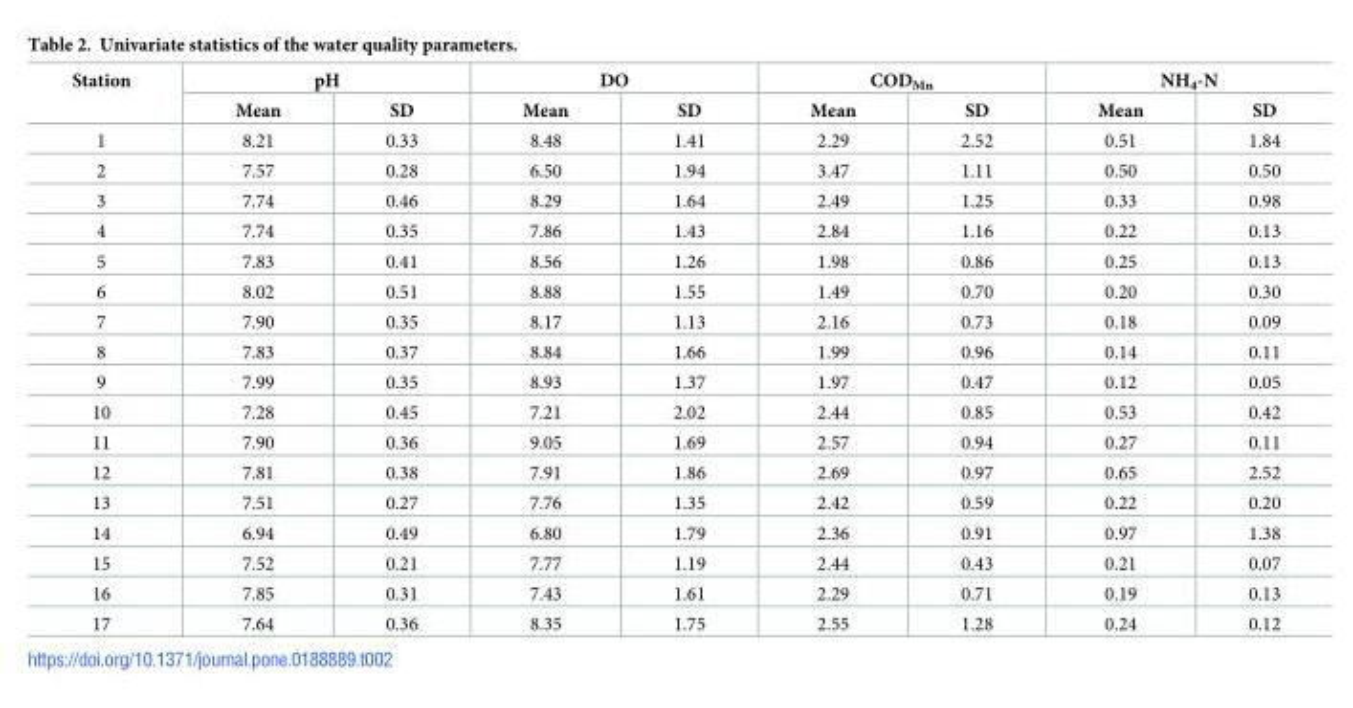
<table><thead><tr><td rowspan="2">Station</td><td colspan="2">pH</td><td colspan="2">DO</td><td colspan="2">COD<sub>Mn</sub></td><td colspan="2">NH<sub>4</sub>-N</td></tr><tr><td>Mean</td><td>SD</td><td>Mean</td><td>SD</td><td>Mean</td><td>SD</td><td>Mean</td><td>SD</td></tr></thead><tbody><tr><td>1</td><td>8.21</td><td>0.33</td><td>8.48</td><td>1.41</td><td>2.29</td><td>2.52</td><td>0.51</td><td>1.84</td></tr><tr><td>2</td><td>7.57</td><td>0.28</td><td>6.50</td><td>1.94</td><td>3.47</td><td>1.11</td><td>0.50</td><td>0.50</td></tr><tr><td>3</td><td>7.74</td><td>0.46</td><td>8.29</td><td>1.64</td><td>2.49</td><td>1.25</td><td>0.33</td><td>0.98</td></tr><tr><td>4</td><td>7.74</td><td>0.35</td><td>7.86</td><td>1.43</td><td>2.84</td><td>1.16</td><td>0.22</td><td>0.13</td></tr><tr><td>5</td><td>7.83</td><td>0.41</td><td>8.56</td><td>1.26</td><td>1.98</td><td>0.86</td><td>0.25</td><td>0.13</td></tr><tr><td>6</td><td>8.02</td><td>0.51</td><td>8.88</td><td>1.55</td><td>1.49</td><td>0.70</td><td>0.20</td><td>0.30</td></tr><tr><td>7</td><td>7.90</td><td>0.35</td><td>8.17</td><td>1.13</td><td>2.16</td><td>0.73</td><td>0.18</td><td>0.09</td></tr><tr><td>8</td><td>7.83</td><td>0.37</td><td>8.84</td><td>1.66</td><td>1.99</td><td>0.96</td><td>0.14</td><td>0.11</td></tr><tr><td>9</td><td>7.99</td><td>0.35</td><td>8.93</td><td>1.37</td><td>1.97</td><td>0.47</td><td>0.12</td><td>0.05</td></tr><tr><td>10</td><td>7.28</td><td>0.45</td><td>7.21</td><td>2.02</td><td>2.44</td><td>0.85</td><td>0.53</td><td>0.42</td></tr><tr><td>11</td><td>7.90</td><td>0.36</td><td>9.05</td><td>1.69</td><td>2.57</td><td>0.94</td><td>0.27</td><td>0.11</td></tr><tr><td>12</td><td>7.81</td><td>0.38</td><td>7.91</td><td>1.86</td><td>2.69</td><td>0.97</td><td>0.65</td><td>2.52</td></tr><tr><td>13</td><td>7.51</td><td>0.27</td><td>7.76</td><td>1.35</td><td>2.42</td><td>0.59</td><td>0.22</td><td>0.20</td></tr><tr><td>14</td><td>6.94</td><td>0.49</td><td>6.80</td><td>1.79</td><td>2.36</td><td>0.91</td><td>0.97</td><td>1.38</td></tr><tr><td>15</td><td>7.52</td><td>0.21</td><td>7.77</td><td>1.19</td><td>2.44</td><td>0.43</td><td>0.21</td><td>0.07</td></tr><tr><td>16</td><td>7.85</td><td>0.31</td><td>7.43</td><td>1.61</td><td>2.29</td><td>0.71</td><td>0.19</td><td>0.13</td></tr><tr><td>17</td><td>7.64</td><td>0.36</td><td>8.35</td><td>1.75</td><td>2.55</td><td>1.28</td><td>0.24</td><td>0.12</td></tr></tbody></table>